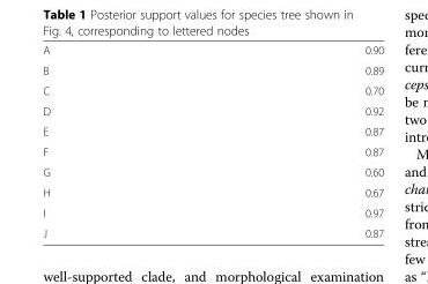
<table><tbody><tr><td>A</td><td>0.90</td></tr><tr><td>B</td><td>0.89</td></tr><tr><td>C</td><td>0.70</td></tr><tr><td>D</td><td>0.92</td></tr><tr><td>E</td><td>0.87</td></tr><tr><td>F</td><td>0.87</td></tr><tr><td>G</td><td>0.60</td></tr><tr><td>H</td><td>0.67</td></tr><tr><td>I</td><td>0.97</td></tr><tr><td>J</td><td>0.87</td></tr></tbody></table>